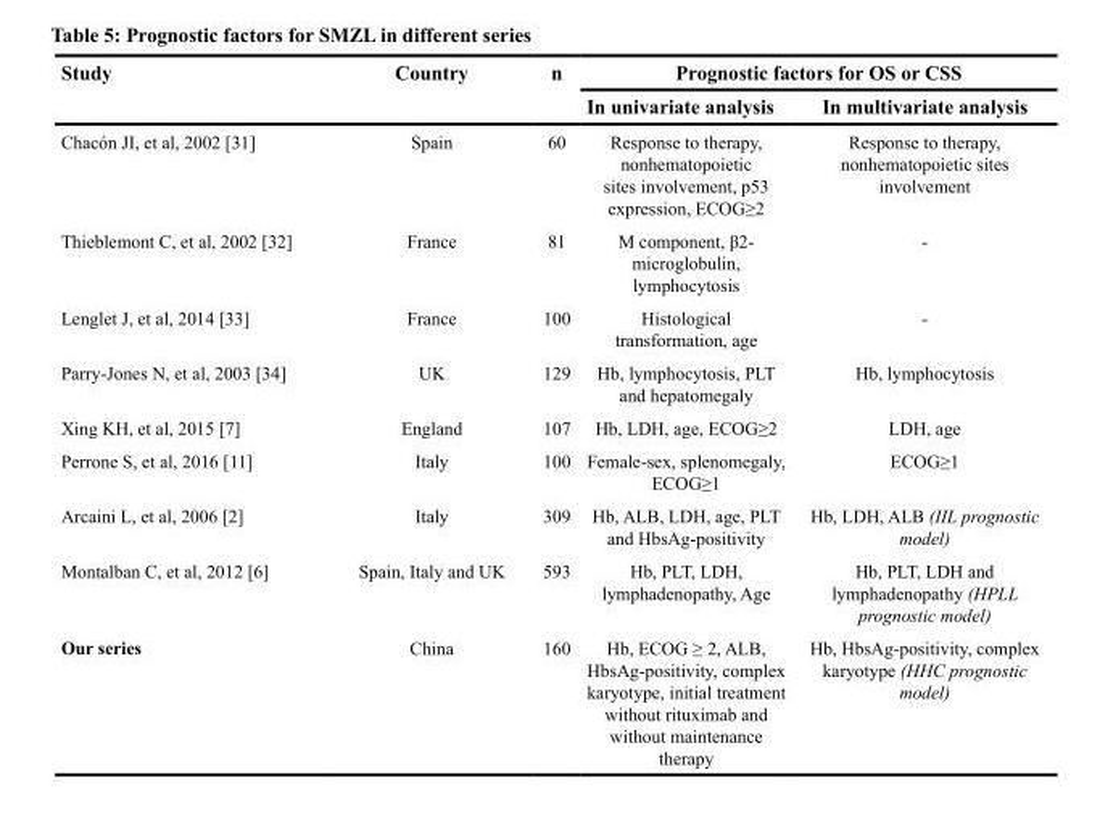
<table><thead><tr><td rowspan="2">Study</td><td rowspan="2">Country</td><td rowspan="2">n</td><td colspan="2">Prognostic factors for OS or CSS</td></tr><tr><td>In univariate analysis</td><td>In multivariate analysis</td></tr></thead><tbody><tr><td>Chacón JI, et al, 2002 [31]</td><td>Spain</td><td>60</td><td>Response to therapy, nonhematopoietic sites involvement, p53 expression, ECOG≥2</td><td>Response to therapy, nonhematopoietic sites involvement</td></tr><tr><td>Thieblemont C, et al, 2002 [32]</td><td>France</td><td>81</td><td>M component, β2- microglobulin, lymphocytosis</td><td>-</td></tr><tr><td>Lenglet J, et al, 2014 [33]</td><td>France</td><td>100</td><td>Histological transformation, age</td><td>-</td></tr><tr><td>Parry-Jones N, et al, 2003 [34]</td><td>UK</td><td>129</td><td>Hb, lymphocytosis, PLT and hepatomegaly</td><td>Hb, lymphocytosis</td></tr><tr><td>Xing KH, et al, 2015 [7]</td><td>England</td><td>107</td><td>Hb, LDH, age, ECOG≥2</td><td>LDH, age</td></tr><tr><td>Perrone S, et al, 2016 [11]</td><td>Italy</td><td>100</td><td>Female-sex, splenomegaly, ECOG≥1</td><td>ECOG≥1</td></tr><tr><td>Arcaini L, et al, 2006 [2]</td><td>Italy</td><td>309</td><td>Hb, ALB, LDH, age, PLT and HbsAg-positivity</td><td>Hb, LDH, ALB (IIL prognostic model)</td></tr><tr><td>Montalban C, et al, 2012 [6]</td><td>Spain, Italy and UK</td><td>593</td><td>Hb, PLT, LDH, lymphadenopathy, Age</td><td>Hb, PLT, LDH and lymphadenopathy (HPLL prognostic model)</td></tr><tr><td>Our series</td><td>China</td><td>160</td><td>Hb, ECOG ≥ 2, ALB, HbsAg-positivity, complex karyotype, initial treatment without rituximab and without maintenance therapy</td><td>Hb, HbsAg-positivity, complex karyotype (HHC prognostic model)</td></tr></tbody></table>